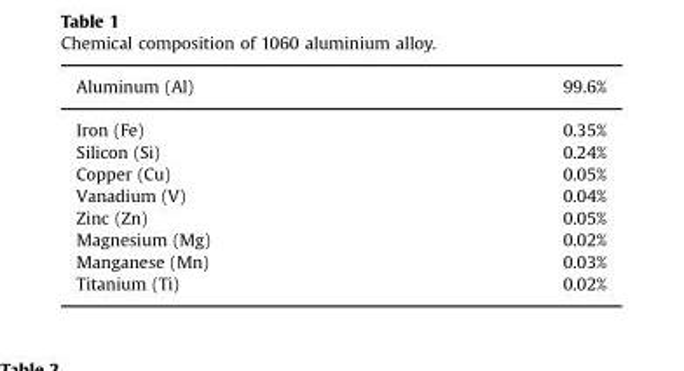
<table><thead><tr><td>Aluminum (Al)</td><td>99.6%</td></tr></thead><tbody><tr><td>Iron (Fe)</td><td>0.35%</td></tr><tr><td>Silicon (Si)</td><td>0.24%</td></tr><tr><td>Copper (Cu)</td><td>0.05%</td></tr><tr><td>Vanadium (V)</td><td>0.04%</td></tr><tr><td>Zinc (Zn)</td><td>0.05%</td></tr><tr><td>Magnesium (Mg)</td><td>0.02%</td></tr><tr><td>Manganese (Mn)</td><td>0.03%</td></tr><tr><td>Titanium (Ti)</td><td>0.02%</td></tr></tbody></table>